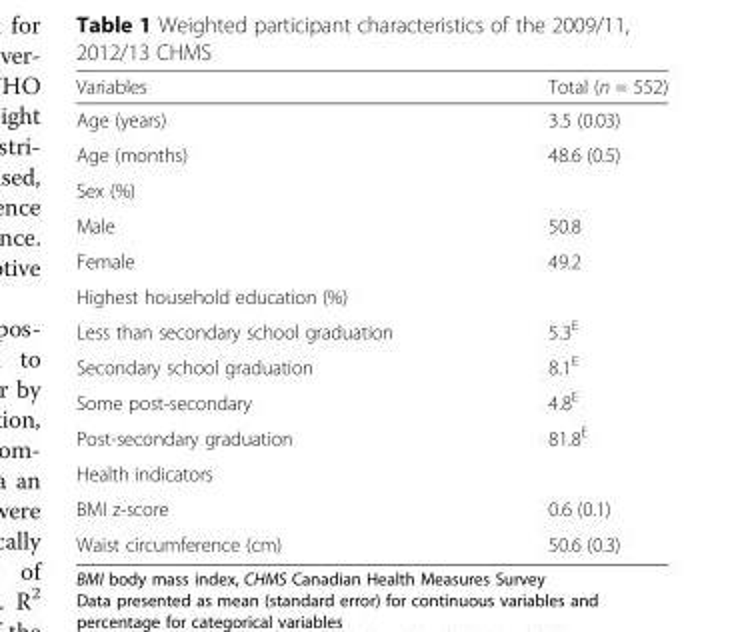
<table><thead><tr><td>Variables</td><td>Total (n = 552)</td></tr></thead><tbody><tr><td>Age (years)</td><td>3.5 (0.03)</td></tr><tr><td>Age (months)</td><td>48.6 (0.5)</td></tr><tr><td colspan="2">Sex (%)</td></tr><tr><td>Male</td><td>50.8</td></tr><tr><td>Female</td><td>49.2</td></tr><tr><td colspan="2">Highest household education (%)</td></tr><tr><td>Less than secondary school graduation</td><td>5.3<sup>E</sup></td></tr><tr><td>Secondary school graduation</td><td>8.1<sup>E</sup></td></tr><tr><td>Some post-secondary</td><td>4.8<sup>E</sup></td></tr><tr><td>Post-secondary graduation</td><td>81.8<sup>E</sup></td></tr><tr><td colspan="2">Health indicators</td></tr><tr><td>BMI z-score</td><td>0.6 (0.1)</td></tr><tr><td>Waist circumference (cm)</td><td>50.6 (0.3)</td></tr></tbody></table>